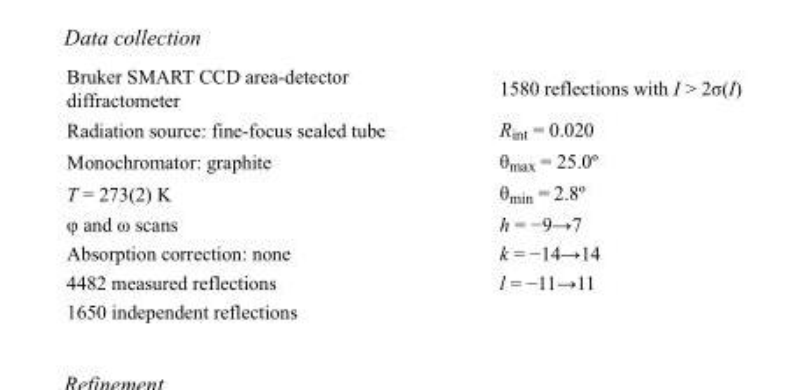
<table><tbody><tr><td>Bruker SMART CCD area-detector diffractometer</td><td>1580 reflections with I &gt; 2σ(I)</td></tr><tr><td>Radiation source: fine-focus sealed tube</td><td>R<sub>int</sub> = 0.020</td></tr><tr><td>Monochromator: graphite</td><td>θ<sub>max</sub> = 25.0º</td></tr><tr><td>T = 273(2) K</td><td>θ<sub>min</sub> = 2.8º</td></tr><tr><td>φ and ω scans</td><td>h = −9→7</td></tr><tr><td>Absorption correction: none</td><td>k = −14→14</td></tr><tr><td>4482 measured reflections</td><td>l = −11→11</td></tr><tr><td>1650 independent reflections</td><td></td></tr></tbody></table>